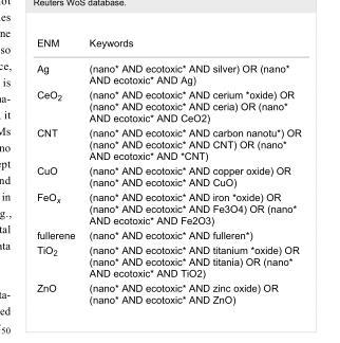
<table><tbody><tr><td>ENM</td><td>Keywords</td></tr><tr><td>Ag</td><td>(nano* AND ecotoxic* AND silver) OR (nano* AND ecotoxic* AND Ag)</td></tr><tr><td>CeO<sub>2</sub></td><td>(nano* AND ecotoxic* AND cerium *oxide) OR (nano* AND ecotoxic* AND ceria) OR (nano* AND ecotoxic* AND CeO2)</td></tr><tr><td>CNT</td><td>(nano* AND ecotoxic* AND carbon nanotu*) OR (nano* AND ecotoxic* AND CNT) OR (nano* AND ecotoxic* AND *CNT)</td></tr><tr><td>CuO</td><td>(nano* AND ecotoxic* AND copper oxide) OR (nano* AND ecotoxic* AND CuO)</td></tr><tr><td>FeO<sub>x</sub></td><td>(nano* AND ecotoxic* AND iron *oxide) OR (nano* AND ecotoxic* AND Fe3O4) OR (nano* AND ecotoxic* AND Fe2O3)</td></tr><tr><td>fullerene</td><td>(nano* AND ecotoxic* AND fulleren*)</td></tr><tr><td>TiO<sub>2</sub></td><td>(nano* AND ecotoxic* AND titanium *oxide) OR (nano* AND ecotoxic* AND titania) OR (nano* AND ecotoxic* AND TiO2)</td></tr><tr><td>ZnO</td><td>(nano* AND ecotoxic* AND zinc oxide) OR (nano* AND ecotoxic* AND ZnO)</td></tr></tbody></table>